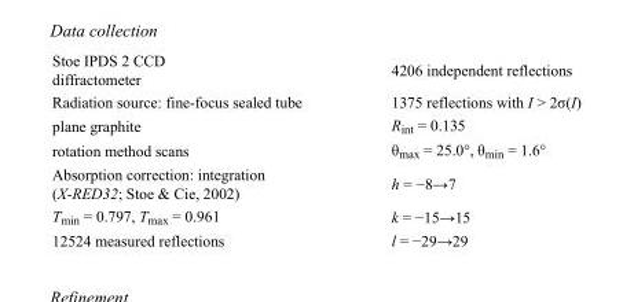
<table><tbody><tr><td>Stoe IPDS 2 CCD diffractometer</td><td>4206 independent reflections</td></tr><tr><td>Radiation source: fine-focus sealed tube</td><td>1375 reflections with I &gt; 2σ(I)</td></tr><tr><td>plane graphite</td><td>R<sub>int</sub> = 0.135</td></tr><tr><td>rotation method scans</td><td>θ<sub>max</sub> = 25.0°, θ<sub>min</sub> = 1.6°</td></tr><tr><td>Absorption correction: integration (X-RED32; Stoe &amp; Cie, 2002)</td><td>h = −8→7</td></tr><tr><td>T<sub>min</sub> = 0.797, T<sub>max</sub> = 0.961</td><td>k = −15→15</td></tr><tr><td>12524 measured reflections</td><td>l = −29→29</td></tr></tbody></table>